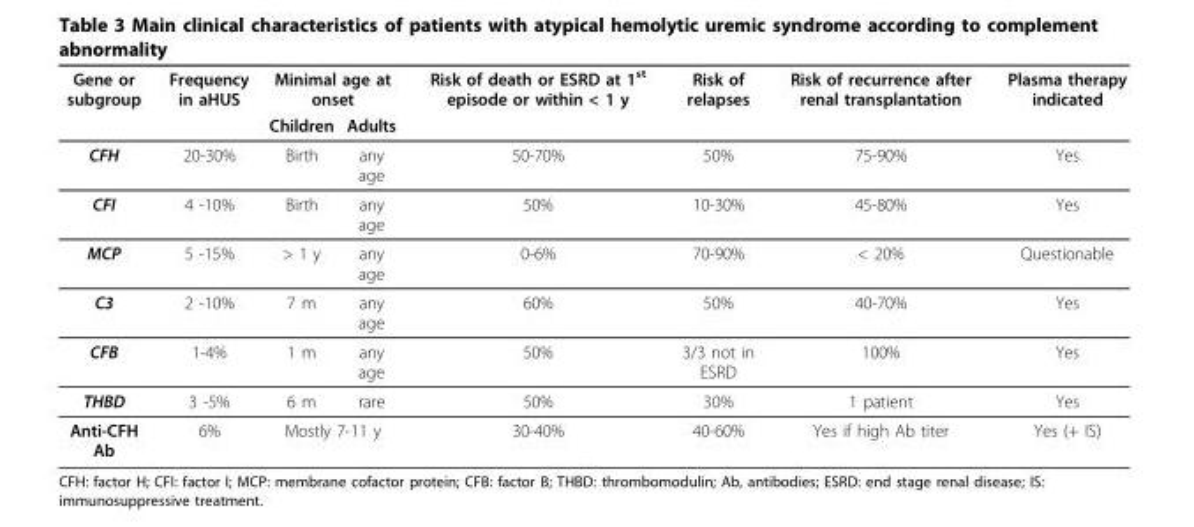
<table><thead><tr><td rowspan="2">Gene or subgroup</td><td rowspan="2">Frequency in aHUS</td><td colspan="2">Minimal age at onset</td><td rowspan="2">Risk of death or ESRD at 1<sup>st</sup> episode or within &lt; 1 y</td><td rowspan="2">Risk of relapses</td><td rowspan="2">Risk of recurrence after renal transplantation</td><td rowspan="2">Plasma therapy indicated</td></tr><tr><td>Children</td><td>Adults</td></tr></thead><tbody><tr><td>CFH</td><td>20-30%</td><td>Birth</td><td>any age</td><td>50-70%</td><td>50%</td><td>75-90%</td><td>Yes</td></tr><tr><td>CFI</td><td>4 -10%</td><td>Birth</td><td>any age</td><td>50%</td><td>10-30%</td><td>45-80%</td><td>Yes</td></tr><tr><td>MCP</td><td>5 -15%</td><td>&gt; 1 y</td><td>any age</td><td>0-6%</td><td>70-90%</td><td>&lt; 20%</td><td>Questionable</td></tr><tr><td>C3</td><td>2 -10%</td><td>7 m</td><td>any age</td><td>60%</td><td>50%</td><td>40-70%</td><td>Yes</td></tr><tr><td>CFB</td><td>1-4%</td><td>1 m</td><td>any age</td><td>50%</td><td>3/3 not in ESRD</td><td>100%</td><td>Yes</td></tr><tr><td>THBD</td><td>3 -5%</td><td>6 m</td><td>rare</td><td>50%</td><td>30%</td><td>1 patient</td><td>Yes</td></tr><tr><td>Anti-CFH Ab</td><td>6%</td><td colspan="2">Mostly 7-11 y</td><td>30-40%</td><td>40-60%</td><td>Yes if high Ab titer</td><td>Yes (+ IS)</td></tr></tbody></table>